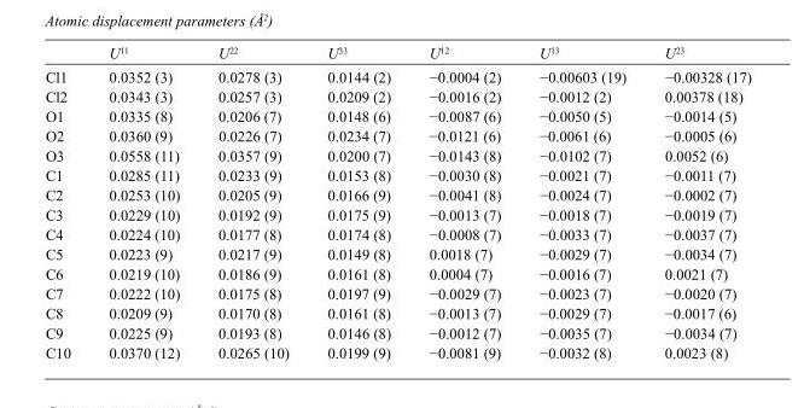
<table><thead><tr><td></td><td>U<sup>11</sup></td><td>U<sup>22</sup></td><td>U<sup>33</sup></td><td>U<sup>12</sup></td><td>U<sup>13</sup></td><td>U<sup>23</sup></td></tr></thead><tbody><tr><td>Cl1</td><td>0.0352 (3)</td><td>0.0278 (3)</td><td>0.0144 (2)</td><td>−0.0004 (2)</td><td>−0.00603 (19)</td><td>−0.00328 (17)</td></tr><tr><td>Cl2</td><td>0.0343 (3)</td><td>0.0257 (3)</td><td>0.0209 (2)</td><td>−0.0016 (2)</td><td>−0.0012 (2)</td><td>0.00378 (18)</td></tr><tr><td>O1</td><td>0.0335 (8)</td><td>0.0206 (7)</td><td>0.0148 (6)</td><td>−0.0087 (6)</td><td>−0.0050 (5)</td><td>−0.0014 (5)</td></tr><tr><td>O2</td><td>0.0360 (9)</td><td>0.0226 (7)</td><td>0.0234 (7)</td><td>−0.0121 (6)</td><td>−0.0061 (6)</td><td>−0.0005 (6)</td></tr><tr><td>O3</td><td>0.0558 (11)</td><td>0.0357 (9)</td><td>0.0200 (7)</td><td>−0.0143 (8)</td><td>−0.0102 (7)</td><td>0.0052 (6)</td></tr><tr><td>C1</td><td>0.0285 (11)</td><td>0.0233 (9)</td><td>0.0153 (8)</td><td>−0.0030 (8)</td><td>−0.0021 (7)</td><td>−0.0011 (7)</td></tr><tr><td>C2</td><td>0.0253 (10)</td><td>0.0205 (9)</td><td>0.0166 (9)</td><td>−0.0041 (8)</td><td>−0.0024 (7)</td><td>−0.0002 (7)</td></tr><tr><td>C3</td><td>0.0229 (10)</td><td>0.0192 (9)</td><td>0.0175 (9)</td><td>−0.0013 (7)</td><td>−0.0018 (7)</td><td>−0.0019 (7)</td></tr><tr><td>C4</td><td>0.0224 (10)</td><td>0.0177 (8)</td><td>0.0174 (8)</td><td>−0.0008 (7)</td><td>−0.0033 (7)</td><td>−0.0037 (7)</td></tr><tr><td>C5</td><td>0.0223 (9)</td><td>0.0217 (9)</td><td>0.0149 (8)</td><td>0.0018 (7)</td><td>−0.0029 (7)</td><td>−0.0034 (7)</td></tr><tr><td>C6</td><td>0.0219 (10)</td><td>0.0186 (9)</td><td>0.0161 (8)</td><td>0.0004 (7)</td><td>−0.0016 (7)</td><td>0.0021 (7)</td></tr><tr><td>C7</td><td>0.0222 (10)</td><td>0.0175 (8)</td><td>0.0197 (9)</td><td>−0.0029 (7)</td><td>−0.0023 (7)</td><td>−0.0020 (7)</td></tr><tr><td>C8</td><td>0.0209 (9)</td><td>0.0170 (8)</td><td>0.0161 (8)</td><td>−0.0013 (7)</td><td>−0.0029 (7)</td><td>−0.0017 (6)</td></tr><tr><td>C9</td><td>0.0225 (9)</td><td>0.0193 (8)</td><td>0.0146 (8)</td><td>−0.0012 (7)</td><td>−0.0035 (7)</td><td>−0.0034 (7)</td></tr><tr><td>C10</td><td>0.0370 (12)</td><td>0.0265 (10)</td><td>0.0199 (9)</td><td>−0.0081 (9)</td><td>−0.0032 (8)</td><td>0.0023 (8)</td></tr></tbody></table>